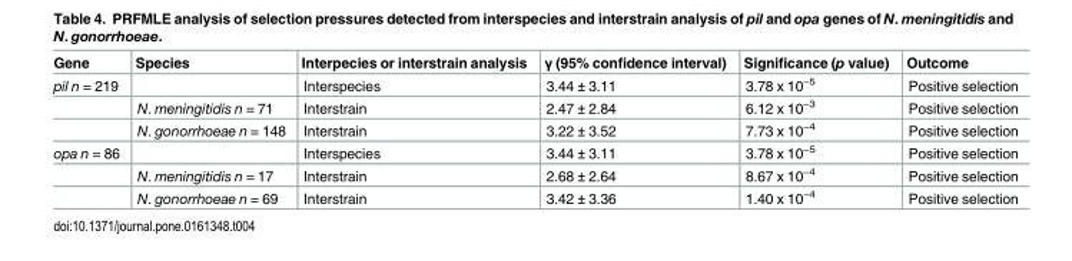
<table><thead><tr><td>Gene</td><td>Species</td><td>Interpecies or interstrain analysis</td><td>γ (95% confidence interval)</td><td>Significance (p value)</td><td>Outcome</td></tr></thead><tbody><tr><td rowspan="3">pil n = 219</td><td></td><td>Interspecies</td><td>3.44 ± 3.11</td><td>3.78 x 10<sup>−5</sup></td><td>Positive selection</td></tr><tr><td>N. meningitidis n = 71</td><td>Interstrain</td><td>2.47 ± 2.84</td><td>6.12 x 10<sup>−3</sup></td><td>Positive selection</td></tr><tr><td>N. gonorrhoeae n = 148</td><td>Interstrain</td><td>3.22 ± 3.52</td><td>7.73 x 10<sup>−4</sup></td><td>Positive selection</td></tr><tr><td rowspan="3">opa n = 86</td><td></td><td>Interspecies</td><td>3.44 ± 3.11</td><td>3.78 x 10<sup>−5</sup></td><td>Positive selection</td></tr><tr><td>N. meningitidis n = 17</td><td>Interstrain</td><td>2.68 ± 2.64</td><td>8.67 x 10<sup>−4</sup></td><td>Positive selection</td></tr><tr><td>N. gonorrhoeae n = 69</td><td>Interstrain</td><td>3.42 ± 3.36</td><td>1.40 x 10<sup>−4</sup></td><td>Positive selection</td></tr></tbody></table>